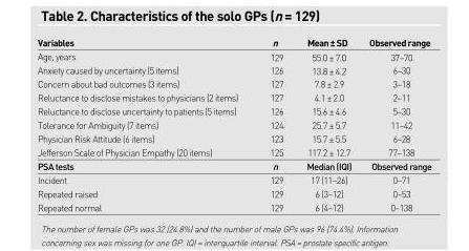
<table><thead><tr><td>Variables</td><td>n</td><td>Mean ± SD</td><td>Observed range</td></tr></thead><tbody><tr><td>Age, years</td><td>129</td><td>55.0 ± 7.0</td><td>37–70</td></tr><tr><td>Anxiety caused by uncertainty (5 items)</td><td>126</td><td>13.8 ± 4.2</td><td>6–30</td></tr><tr><td>Concern about bad outcomes (3 items)</td><td>127</td><td>7.8 ± 2.9</td><td>3–18</td></tr><tr><td>Reluctance to disclose mistakes to physicians (2 items)</td><td>127</td><td>4.1 ± 2.0</td><td>2–11</td></tr><tr><td>Reluctance to disclose uncertainty to patients (5 items)</td><td>126</td><td>15.6 ± 4.6</td><td>5–30</td></tr><tr><td>Tolerance for Ambiguity (7 items)</td><td>124</td><td>25.7 ± 5.7</td><td>11–42</td></tr><tr><td>Physician Risk Attitude (6 items)</td><td>123</td><td>15.7 ± 5.5</td><td>6–28</td></tr><tr><td>Jefferson Scale of Physician Empathy (20 items)</td><td>125</td><td>117.2 ± 12.7</td><td>77–138</td></tr><tr><td>PSA tests</td><td>n</td><td>Median (IQI)</td><td>Observed range</td></tr><tr><td>Incident</td><td>129</td><td>17 (11–26)</td><td>0–71</td></tr><tr><td>Repeated raised</td><td>129</td><td>6 (3–12)</td><td>0–53</td></tr><tr><td>Repeated normal</td><td>129</td><td>6 (4–12)</td><td>0–138</td></tr></tbody></table>